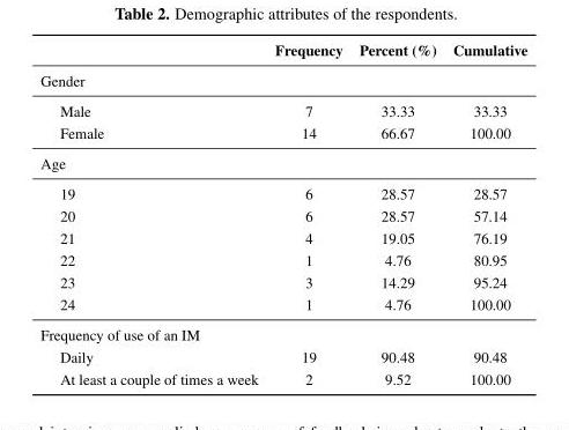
<table><thead><tr><td></td><td>Frequency</td><td>Percent (%)</td><td>Cumulative</td></tr></thead><tbody><tr><td colspan="4">Gender</td></tr><tr><td>Male</td><td>7</td><td>33.33</td><td>33.33</td></tr><tr><td>Female</td><td>14</td><td>66.67</td><td>100.00</td></tr><tr><td colspan="4">Age</td></tr><tr><td>19</td><td>6</td><td>28.57</td><td>28.57</td></tr><tr><td>20</td><td>6</td><td>28.57</td><td>57.14</td></tr><tr><td>21</td><td>4</td><td>19.05</td><td>76.19</td></tr><tr><td>22</td><td>1</td><td>4.76</td><td>80.95</td></tr><tr><td>23</td><td>3</td><td>14.29</td><td>95.24</td></tr><tr><td>24</td><td>1</td><td>4.76</td><td>100.00</td></tr><tr><td colspan="4">Frequency of use of an IM</td></tr><tr><td>Daily</td><td>19</td><td>90.48</td><td>90.48</td></tr><tr><td>At least a couple of times a week</td><td>2</td><td>9.52</td><td>100.00</td></tr></tbody></table>